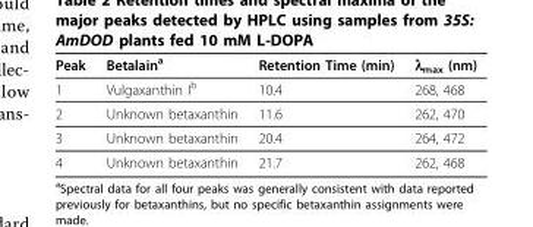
<table><thead><tr><td>Peak</td><td>Betalain<sup>a</sup></td><td>Retention Time (min)</td><td>λ<sub>max</sub> (nm)</td></tr></thead><tbody><tr><td>1</td><td>Vulgaxanthin I<sup>b</sup></td><td>10.4</td><td>268, 468</td></tr><tr><td>2</td><td>Unknown betaxanthin</td><td>11.6</td><td>262, 470</td></tr><tr><td>3</td><td>Unknown betaxanthin</td><td>20.4</td><td>264, 472</td></tr><tr><td>4</td><td>Unknown betaxanthin</td><td>21.7</td><td>262, 468</td></tr></tbody></table>